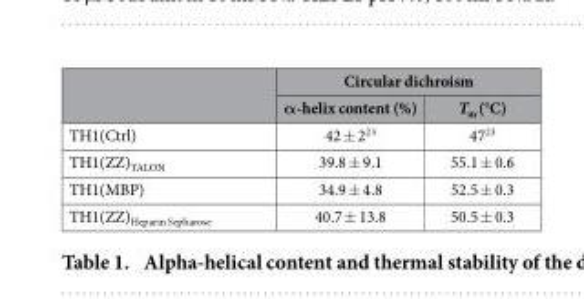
<table><thead><tr><td rowspan="2"></td><td colspan="2">Circular dichroism</td></tr><tr><td>α-helix content (%)</td><td>T<sub>m</sub> (°C)</td></tr></thead><tbody><tr><td>TH1(Ctrl)</td><td>42 ± 2<sup>23</sup></td><td>47<sup>23</sup></td></tr><tr><td>TH1(ZZ)<sub>TALON</sub></td><td>39.8 ± 9.1</td><td>55.1 ± 0.6</td></tr><tr><td>TH1(MBP)</td><td>34.9 ± 4.8</td><td>52.5 ± 0.3</td></tr><tr><td>TH1(ZZ)<sub>Heparin Sepharose</sub></td><td>40.7 ± 13.8</td><td>50.5 ± 0.3</td></tr></tbody></table>